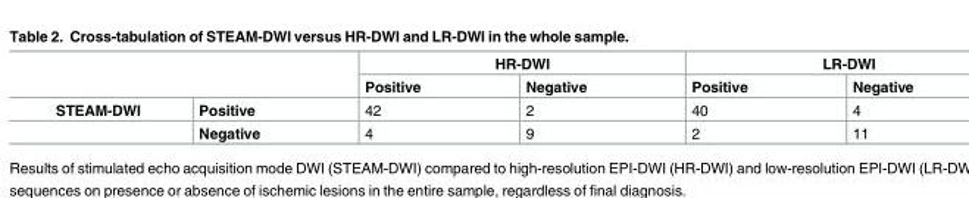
<table><thead><tr><td rowspan="2"></td><td rowspan="2"></td><td colspan="2">HR-DWI</td><td colspan="2">LR-DWI</td></tr><tr><td>Positive</td><td>Negative</td><td>Positive</td><td>Negative</td></tr></thead><tbody><tr><td rowspan="2">STEAM-DWI</td><td>Positive</td><td>42</td><td>2</td><td>40</td><td>4</td></tr><tr><td>Negative</td><td>4</td><td>9</td><td>2</td><td>11</td></tr></tbody></table>